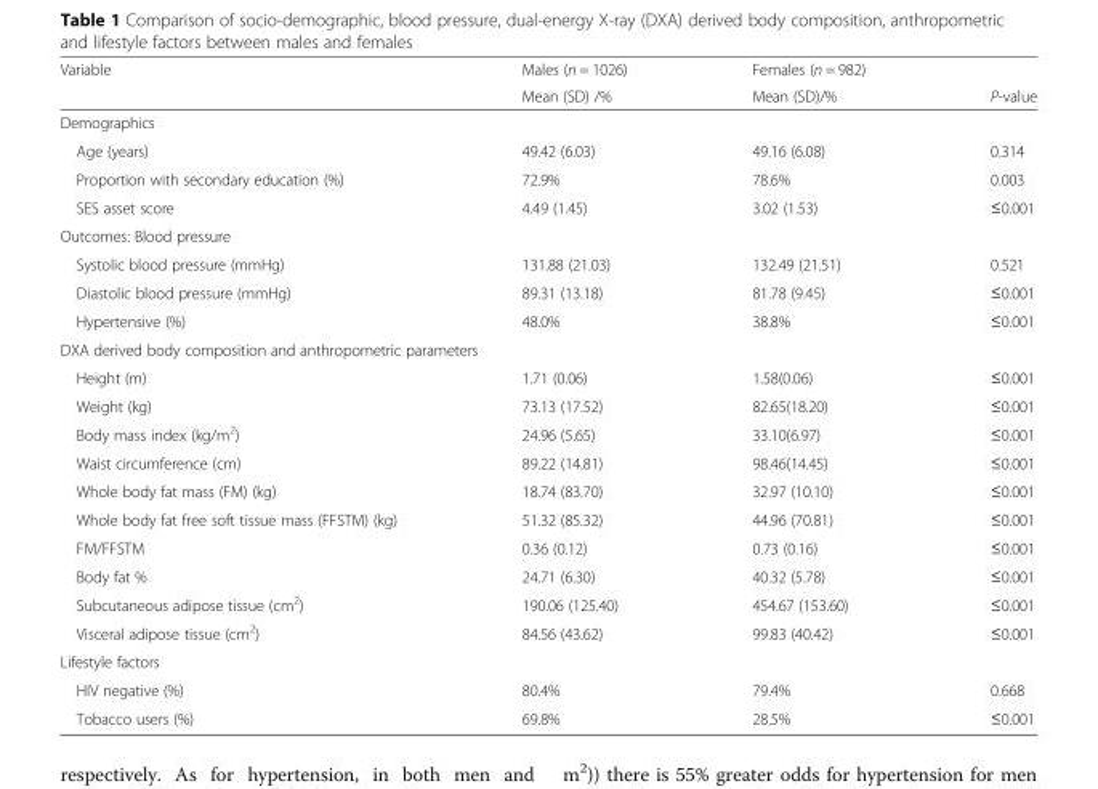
<table><thead><tr><td rowspan="2">Variable</td><td rowspan="2">Males (n = 1026) Mean (SD) /%</td><td rowspan="2">Females (n = 982) Mean (SD)/%</td><td rowspan="2">P-value</td></tr><tr></tr></thead><tbody><tr><td colspan="4">Demographics</td></tr><tr><td>Age (years)</td><td>49.42 (6.03)</td><td>49.16 (6.08)</td><td>0.314</td></tr><tr><td>Proportion with secondary education (%)</td><td>72.9%</td><td>78.6%</td><td>0.003</td></tr><tr><td>SES asset score</td><td>4.49 (1.45)</td><td>3.02 (1.53)</td><td>≤0.001</td></tr><tr><td colspan="4">Outcomes: Blood pressure</td></tr><tr><td>Systolic blood pressure (mmHg)</td><td>131.88 (21.03)</td><td>132.49 (21.51)</td><td>0.521</td></tr><tr><td>Diastolic blood pressure (mmHg)</td><td>89.31 (13.18)</td><td>81.78 (9.45)</td><td>≤0.001</td></tr><tr><td>Hypertensive (%)</td><td>48.0%</td><td>38.8%</td><td>≤0.001</td></tr><tr><td colspan="4">DXA derived body composition and anthropometric parameters</td></tr><tr><td>Height (m)</td><td>1.71 (0.06)</td><td>1.58(0.06)</td><td>≤0.001</td></tr><tr><td>Weight (kg)</td><td>73.13 (17.52)</td><td>82.65(18.20)</td><td>≤0.001</td></tr><tr><td>Body mass index (kg/m<sup>2</sup>)</td><td>24.96 (5.65)</td><td>33.10(6.97)</td><td>≤0.001</td></tr><tr><td>Waist circumference (cm)</td><td>89.22 (14.81)</td><td>98.46(14.45)</td><td>≤0.001</td></tr><tr><td>Whole body fat mass (FM) (kg)</td><td>18.74 (83.70)</td><td>32.97 (10.10)</td><td>≤0.001</td></tr><tr><td>Whole body fat free soft tissue mass (FFSTM) (kg)</td><td>51.32 (85.32)</td><td>44.96 (70.81)</td><td>≤0.001</td></tr><tr><td>FM/FFSTM</td><td>0.36 (0.12)</td><td>0.73 (0.16)</td><td>≤0.001</td></tr><tr><td>Body fat %</td><td>24.71 (6.30)</td><td>40.32 (5.78)</td><td>≤0.001</td></tr><tr><td>Subcutaneous adipose tissue (cm<sup>2</sup>)</td><td>190.06 (125.40)</td><td>454.67 (153.60)</td><td>≤0.001</td></tr><tr><td>Visceral adipose tissue (cm<sup>2</sup>)</td><td>84.56 (43.62)</td><td>99.83 (40.42)</td><td>≤0.001</td></tr><tr><td colspan="4">Lifestyle factors</td></tr><tr><td>HIV negative (%)</td><td>80.4%</td><td>79.4%</td><td>0.668</td></tr><tr><td>Tobacco users (%)</td><td>69.8%</td><td>28.5%</td><td>≤0.001</td></tr></tbody></table>